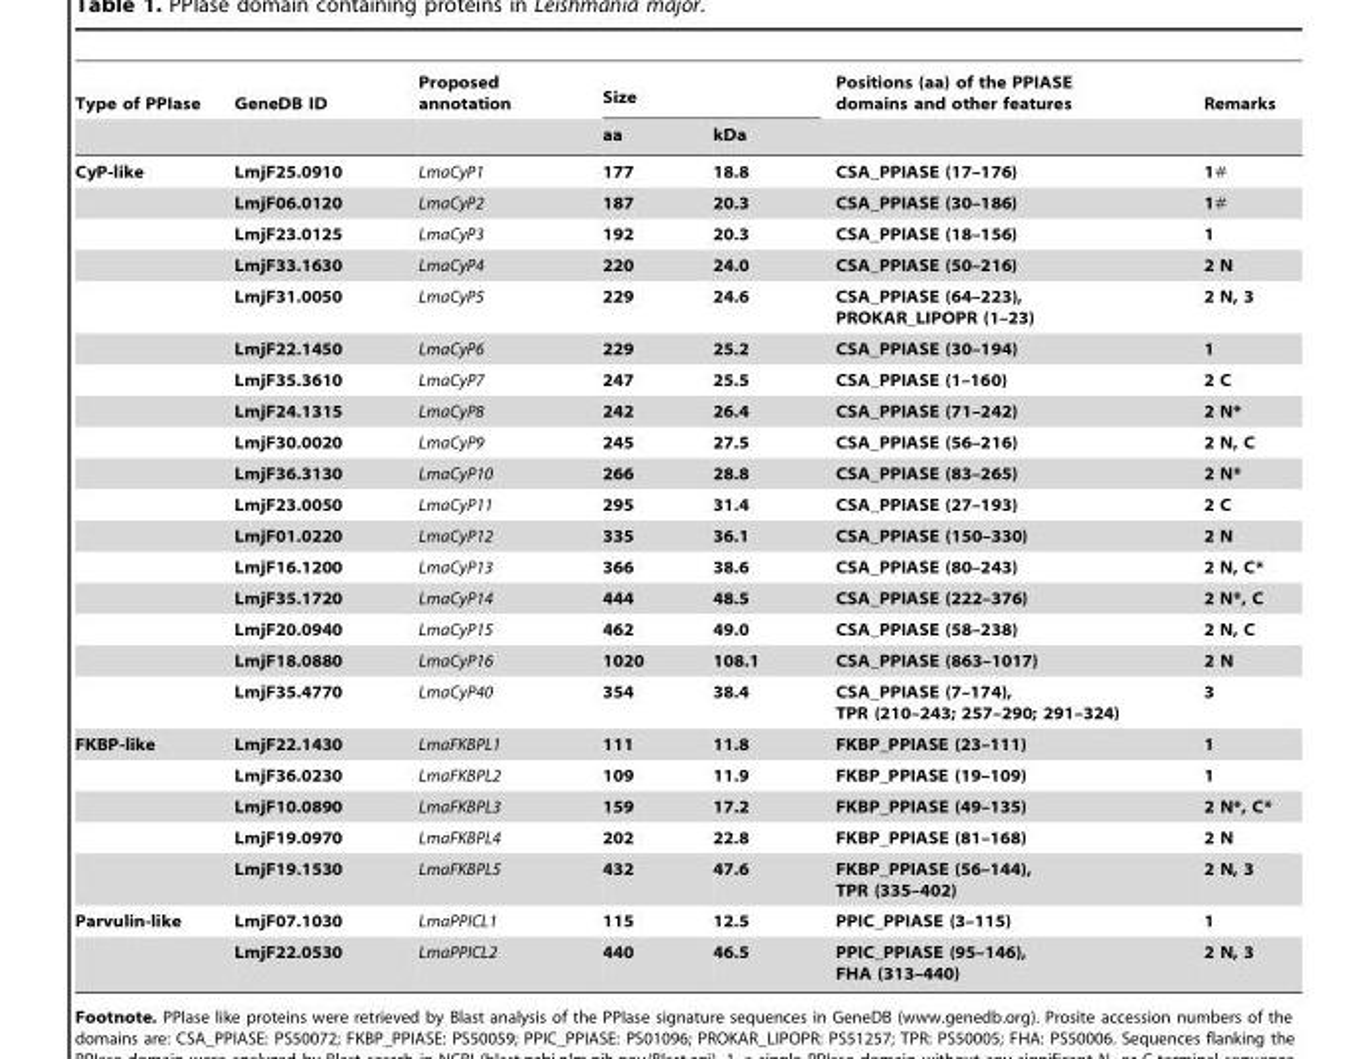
<table><thead><tr><td rowspan="2">Type of PPIase</td><td rowspan="2">GeneDB ID</td><td rowspan="2">Proposed annotation</td><td colspan="2">Size</td><td rowspan="2">Positions (aa) of the PPIASE domains and other features</td><td rowspan="2">Remarks</td></tr><tr><td>aa</td><td>kDa</td></tr></thead><tbody><tr><td rowspan="17">CyP-like</td><td>LmjF25.0910</td><td>LmaCyP1</td><td>177</td><td>18.8</td><td>CSA_PPIASE (17–176)</td><td>1#</td></tr><tr><td>LmjF06.0120</td><td>LmaCyP2</td><td>187</td><td>20.3</td><td>CSA_PPIASE (30–186)</td><td>1#</td></tr><tr><td>LmjF23.0125</td><td>LmaCyP3</td><td>192</td><td>20.3</td><td>CSA_PPIASE (18–156)</td><td>1</td></tr><tr><td>LmjF33.1630</td><td>LmaCyP4</td><td>220</td><td>24.0</td><td>CSA_PPIASE (50–216)</td><td>2 N</td></tr><tr><td>LmjF31.0050</td><td>LmaCyP5</td><td>229</td><td>24.6</td><td>CSA_PPIASE (64–223), PROKAR_LIPOPR (1–23)</td><td>2 N, 3</td></tr><tr><td>LmjF22.1450</td><td>LmaCyP6</td><td>229</td><td>25.2</td><td>CSA_PPIASE (30–194)</td><td>1</td></tr><tr><td>LmjF35.3610</td><td>LmaCyP7</td><td>247</td><td>25.5</td><td>CSA_PPIASE (1–160)</td><td>2 C</td></tr><tr><td>LmjF24.1315</td><td>LmaCyP8</td><td>242</td><td>26.4</td><td>CSA_PPIASE (71–242)</td><td>2 N*</td></tr><tr><td>LmjF30.0020</td><td>LmaCyP9</td><td>245</td><td>27.5</td><td>CSA_PPIASE (56–216)</td><td>2 N, C</td></tr><tr><td>LmjF36.3130</td><td>LmaCyP10</td><td>266</td><td>28.8</td><td>CSA_PPIASE (83–265)</td><td>2 N*</td></tr><tr><td>LmjF23.0050</td><td>LmaCyP11</td><td>295</td><td>31.4</td><td>CSA_PPIASE (27–193)</td><td>2 C</td></tr><tr><td>LmjF01.0220</td><td>LmaCyP12</td><td>335</td><td>36.1</td><td>CSA_PPIASE (150–330)</td><td>2 N</td></tr><tr><td>LmjF16.1200</td><td>LmaCyP13</td><td>366</td><td>38.6</td><td>CSA_PPIASE (80–243)</td><td>2 N, C*</td></tr><tr><td>LmjF35.1720</td><td>LmaCyP14</td><td>444</td><td>48.5</td><td>CSA_PPIASE (222–376)</td><td>2 N*, C</td></tr><tr><td>LmjF20.0940</td><td>LmaCyP15</td><td>462</td><td>49.0</td><td>CSA_PPIASE (58–238)</td><td>2 N, C</td></tr><tr><td>LmjF18.0880</td><td>LmaCyP16</td><td>1020</td><td>108.1</td><td>CSA_PPIASE (863–1017)</td><td>2 N</td></tr><tr><td>LmjF35.4770</td><td>LmaCyP40</td><td>354</td><td>38.4</td><td>CSA_PPIASE (7–174), TPR (210–243; 257–290; 291–324)</td><td>3</td></tr><tr><td rowspan="5">FKBP-like</td><td>LmjF22.1430</td><td>LmaFKBPL1</td><td>111</td><td>11.8</td><td>FKBP_PPIASE (23–111)</td><td>1</td></tr><tr><td>LmjF36.0230</td><td>LmaFKBPL2</td><td>109</td><td>11.9</td><td>FKBP_PPIASE (19–109)</td><td>1</td></tr><tr><td>LmjF10.0890</td><td>LmaFKBPL3</td><td>159</td><td>17.2</td><td>FKBP_PPIASE (49–135)</td><td>2 N*, C*</td></tr><tr><td>LmjF19.0970</td><td>LmaFKBPL4</td><td>202</td><td>22.8</td><td>FKBP_PPIASE (81–168)</td><td>2 N</td></tr><tr><td>LmjF19.1530</td><td>LmaFKBPL5</td><td>432</td><td>47.6</td><td>FKBP_PPIASE (56–144), TPR (335–402)</td><td>2 N, 3</td></tr><tr><td rowspan="2">Parvulin-like</td><td>LmjF07.1030</td><td>LmaPPICL1</td><td>115</td><td>12.5</td><td>PPIC_PPIASE (3–115)</td><td>1</td></tr><tr><td>LmjF22.0530</td><td>LmaPPICL2</td><td>440</td><td>46.5</td><td>PPIC_PPIASE (95–146), FHA (313–440)</td><td>2 N, 3</td></tr></tbody></table>